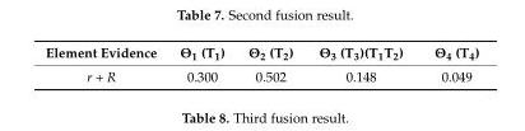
<table><thead><tr><td>Element Evidence</td><td>Θ<sub>1</sub> (T<sub>1</sub>)</td><td>Θ<sub>2</sub> (T<sub>2</sub>)</td><td>Θ<sub>3</sub> (T<sub>3</sub>)(T<sub>1</sub>T<sub>2</sub>)</td><td>Θ<sub>4</sub> (T<sub>4</sub>)</td></tr></thead><tbody><tr><td>r + R</td><td>0.300</td><td>0.502</td><td>0.148</td><td>0.049</td></tr></tbody></table>